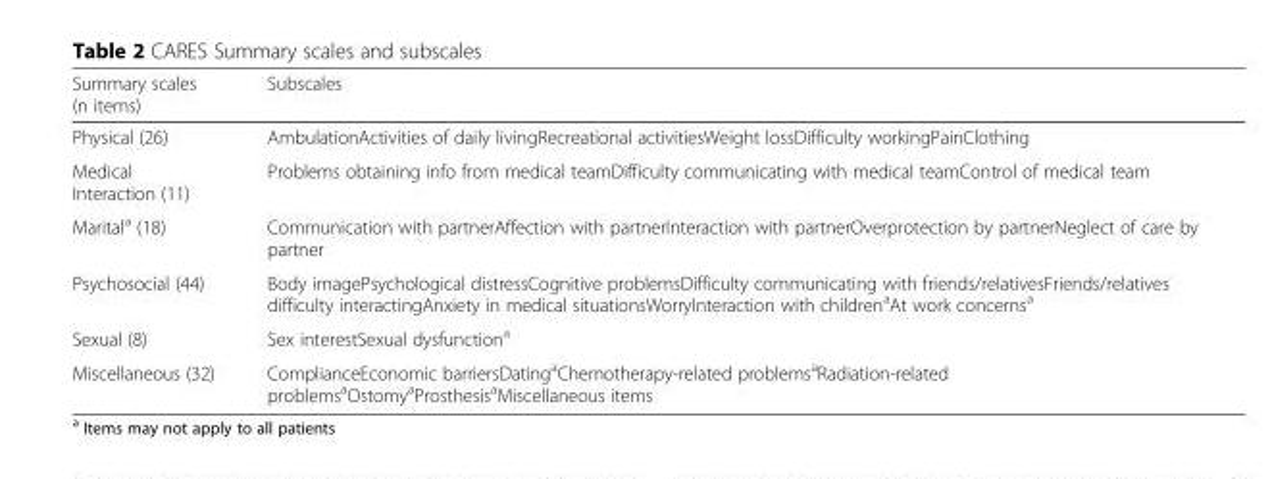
<table><thead><tr><td>Summary scales (n items)</td><td>Subscales</td></tr></thead><tbody><tr><td>Physical (26)</td><td>AmbulationActivities of daily livingRecreational activitiesWeight lossDifficulty workingPainClothing</td></tr><tr><td>Medical Interaction (11)</td><td>Problems obtaining info from medical teamDifficulty communicating with medical teamControl of medical team</td></tr><tr><td>Marital<sup>a</sup> (18)</td><td>Communication with partnerAffection with partnerInteraction with partnerOverprotection by partnerNeglect of care by partner</td></tr><tr><td>Psychosocial (44)</td><td>Body imagePsychological distressCognitive problemsDifficulty communicating with friends/relativesFriends/relatives difficulty interactingAnxiety in medical situationsWorryInteraction with children<sup>a</sup>At work concerns<sup>a</sup></td></tr><tr><td>Sexual (8)</td><td>Sex interestSexual dysfunction<sup>a</sup></td></tr><tr><td>Miscellaneous (32)</td><td>ComplianceEconomic barriersDating<sup>a</sup>Chemotherapy-related problems<sup>a</sup>Radiation-related problems<sup>a</sup>Ostomy<sup>a</sup>Prosthesis<sup>a</sup>Miscellaneous items</td></tr></tbody></table>